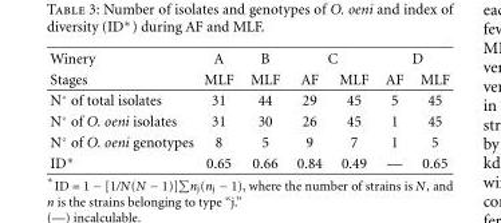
<table><thead><tr><td rowspan="2">Winery Stages</td><td rowspan="2">A MLF</td><td rowspan="2">B MLF</td><td colspan="2">C</td><td colspan="2">D</td></tr><tr><td>AF</td><td>MLF</td><td>AF</td><td>MLF</td></tr></thead><tbody><tr><td>N◦ of total isolates</td><td>31</td><td>44</td><td>29</td><td>45</td><td>5</td><td>45</td></tr><tr><td>N◦ of O. oeni isolates</td><td>31</td><td>30</td><td>26</td><td>45</td><td>1</td><td>45</td></tr><tr><td>N◦ of O. oeni genotypes</td><td>8</td><td>5</td><td>9</td><td>7</td><td>1</td><td>5</td></tr><tr><td>ID∗</td><td>0.65</td><td>0.66</td><td>0.84</td><td>0.49</td><td>—</td><td>0.65</td></tr></tbody></table>